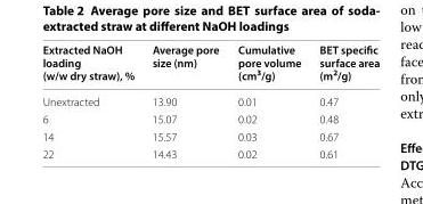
<table><thead><tr><td>Extracted NaOH loading (w/w dry straw), %</td><td>Average pore size (nm)</td><td>Cumulative pore volume (cm<sup>3</sup>/g)</td><td>BET specific surface area (m<sup>2</sup>/g)</td></tr></thead><tbody><tr><td>Unextracted</td><td>13.90</td><td>0.01</td><td>0.47</td></tr><tr><td>6</td><td>15.07</td><td>0.02</td><td>0.48</td></tr><tr><td>14</td><td>15.57</td><td>0.03</td><td>0.67</td></tr><tr><td>22</td><td>14.43</td><td>0.02</td><td>0.61</td></tr></tbody></table>